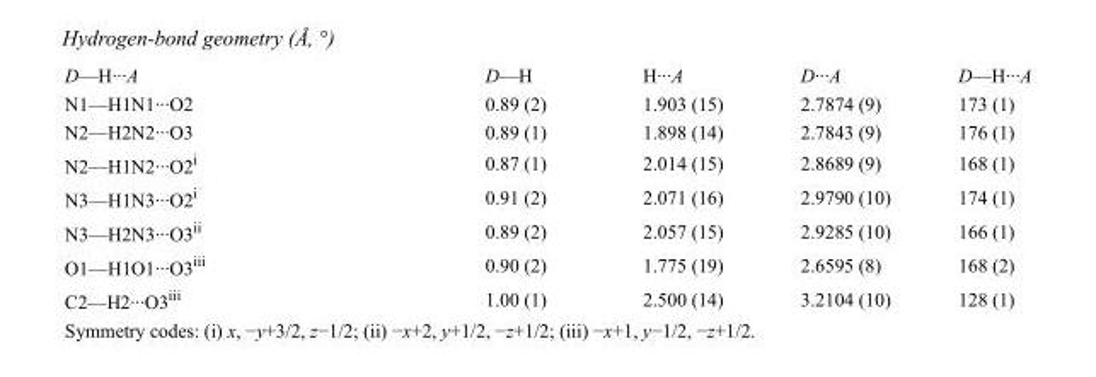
<table><tbody><tr><td>D—H···A</td><td>D—H</td><td>H···A</td><td>D···A</td><td>D—H···A</td></tr><tr><td>N1—H1N1···O2</td><td>0.89 (2)</td><td>1.903 (15)</td><td>2.7874 (9)</td><td>173 (1)</td></tr><tr><td>N2—H2N2···O3</td><td>0.89 (1)</td><td>1.898 (14)</td><td>2.7843 (9)</td><td>176 (1)</td></tr><tr><td>N2—H1N2···O2<sup>i</sup></td><td>0.87 (1)</td><td>2.014 (15)</td><td>2.8689 (9)</td><td>168 (1)</td></tr><tr><td>N3—H1N3···O2<sup>i</sup></td><td>0.91 (2)</td><td>2.071 (16)</td><td>2.9790 (10)</td><td>174 (1)</td></tr><tr><td>N3—H2N3···O3<sup>ii</sup></td><td>0.89 (2)</td><td>2.057 (15)</td><td>2.9285 (10)</td><td>166 (1)</td></tr><tr><td>O1—H1O1···O3<sup>iii</sup></td><td>0.90 (2)</td><td>1.775 (19)</td><td>2.6595 (8)</td><td>168 (2)</td></tr><tr><td>C2—H2···O3<sup>iii</sup></td><td>1.00 (1)</td><td>2.500 (14)</td><td>3.2104 (10)</td><td>128 (1)</td></tr></tbody></table>